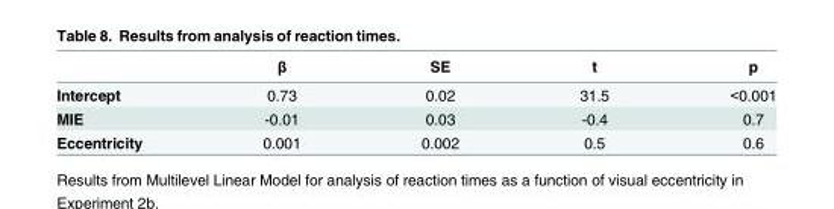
<table><thead><tr><td></td><td>β</td><td>SE</td><td>t</td><td>p</td></tr></thead><tbody><tr><td>Intercept</td><td>0.73</td><td>0.02</td><td>31.5</td><td>&lt;0.001</td></tr><tr><td>MIE</td><td>-0.01</td><td>0.03</td><td>-0.4</td><td>0.7</td></tr><tr><td>Eccentricity</td><td>0.001</td><td>0.002</td><td>0.5</td><td>0.6</td></tr></tbody></table>